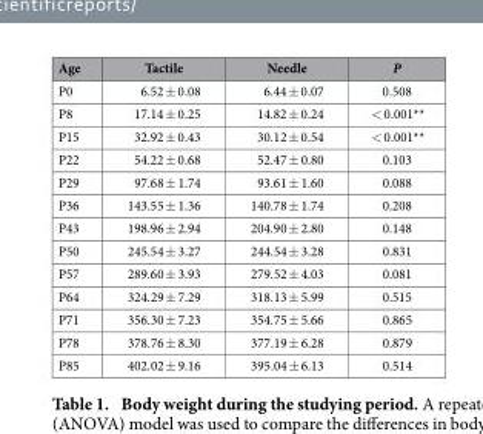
<table><thead><tr><td>Age</td><td>Tactile</td><td>Needle</td><td>P</td></tr></thead><tbody><tr><td>P0</td><td>6.52 ± 0.08</td><td>6.44 ± 0.07</td><td>0.508</td></tr><tr><td>P8</td><td>17.14 ± 0.25</td><td>14.82 ± 0.24</td><td>&lt; 0.001**</td></tr><tr><td>P15</td><td>32.92 ± 0.43</td><td>30.12 ± 0.54</td><td>&lt; 0.001**</td></tr><tr><td>P22</td><td>54.22 ± 0.68</td><td>52.47 ± 0.80</td><td>0.103</td></tr><tr><td>P29</td><td>97.68 ± 1.74</td><td>93.61 ± 1.60</td><td>0.088</td></tr><tr><td>P36</td><td>143.55 ± 1.36</td><td>140.78 ± 1.74</td><td>0.208</td></tr><tr><td>P43</td><td>198.96 ± 2.94</td><td>204.90 ± 2.80</td><td>0.148</td></tr><tr><td>P50</td><td>245.54 ± 3.27</td><td>244.54 ± 3.28</td><td>0.831</td></tr><tr><td>P57</td><td>289.60 ± 3.93</td><td>279.52 ± 4.03</td><td>0.081</td></tr><tr><td>P64</td><td>324.29 ± 7.29</td><td>318.13 ± 5.99</td><td>0.515</td></tr><tr><td>P71</td><td>356.30 ± 7.23</td><td>354.75 ± 5.66</td><td>0.865</td></tr><tr><td>P78</td><td>378.76 ± 8.30</td><td>377.19 ± 6.28</td><td>0.879</td></tr><tr><td>P85</td><td>402.02 ± 9.16</td><td>395.04 ± 6.13</td><td>0.514</td></tr></tbody></table>